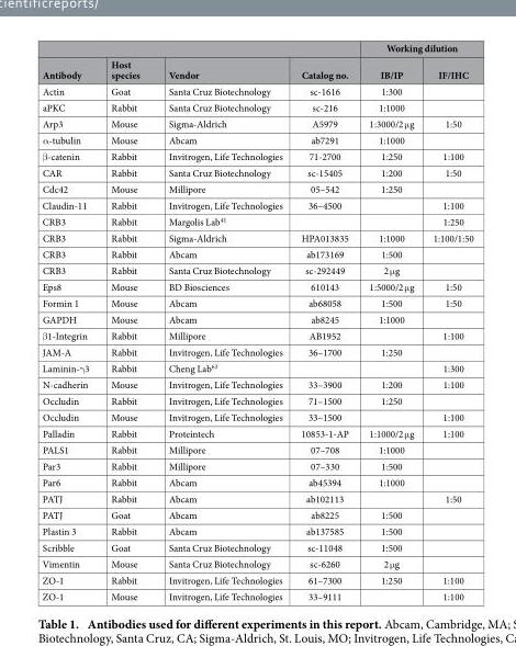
<table><thead><tr><td rowspan="2">Antibody</td><td rowspan="2">Host species</td><td rowspan="2">Vendor</td><td rowspan="2">Catalog no.</td><td colspan="2">Working dilution</td></tr><tr><td>IB/IP</td><td>IF/IHC</td></tr></thead><tbody><tr><td>Actin</td><td>Goat</td><td>Santa Cruz Biotechnology</td><td>sc-1616</td><td>1:300</td><td></td></tr><tr><td>aPKC</td><td>Rabbit</td><td>Santa Cruz Biotechnology</td><td>sc-216</td><td>1:1000</td><td></td></tr><tr><td>Arp3</td><td>Mouse</td><td>Sigma-Aldrich</td><td>A5979</td><td>1:3000/2 μ g</td><td>1:50</td></tr><tr><td>α -tubulin</td><td>Mouse</td><td>Abcam</td><td>ab7291</td><td>1:1000</td><td></td></tr><tr><td>β -catenin</td><td>Rabbit</td><td>Invitrogen, Life Technologies</td><td>71-2700</td><td>1:250</td><td>1:100</td></tr><tr><td>CAR</td><td>Rabbit</td><td>Santa Cruz Biotechnology</td><td>sc-15405</td><td>1:200</td><td>1:50</td></tr><tr><td>Cdc42</td><td>Mouse</td><td>Millipore</td><td>05–542</td><td>1:250</td><td></td></tr><tr><td>Claudin-11</td><td>Rabbit</td><td>Invitrogen, Life Technologies</td><td>36–4500</td><td></td><td>1:100</td></tr><tr><td>CRB3</td><td>Rabbit</td><td>Margolis Lab<sup>41</sup></td><td></td><td></td><td>1:250</td></tr><tr><td>CRB3</td><td>Rabbit</td><td>Sigma-Aldrich</td><td>HPA013835</td><td>1:1000</td><td>1:100/1:50</td></tr><tr><td>CRB3</td><td>Rabbit</td><td>Abcam</td><td>ab173169</td><td>1:500</td><td></td></tr><tr><td>CRB3</td><td>Rabbit</td><td>Santa Cruz Biotechnology</td><td>sc-292449</td><td>2 μ g</td><td></td></tr><tr><td>Eps8</td><td>Mouse</td><td>BD Biosciences</td><td>610143</td><td>1:5000/2 μ g</td><td>1:50</td></tr><tr><td>Formin 1</td><td>Mouse</td><td>Abcam</td><td>ab68058</td><td>1:500</td><td>1:50</td></tr><tr><td>GAPDH</td><td>Mouse</td><td>Abcam</td><td>ab8245</td><td>1:1000</td><td></td></tr><tr><td>β1-Integrin</td><td>Rabbit</td><td>Millipore</td><td>AB1952</td><td></td><td>1:100</td></tr><tr><td>JAM-A</td><td>Rabbit</td><td>Invitrogen, Life Technologies</td><td>36–1700</td><td>1:250</td><td></td></tr><tr><td>Laminin-γ 3</td><td>Rabbit</td><td>Cheng Lab<sup>63</sup></td><td></td><td></td><td>1:300</td></tr><tr><td>N-cadherin</td><td>Mouse</td><td>Invitrogen, Life Technologies</td><td>33–3900</td><td>1:200</td><td>1:100</td></tr><tr><td>Occludin</td><td>Rabbit</td><td>Invitrogen, Life Technologies</td><td>71–1500</td><td>1:250</td><td></td></tr><tr><td>Occludin</td><td>Mouse</td><td>Invitrogen, Life Technologies</td><td>33–1500</td><td></td><td>1:100</td></tr><tr><td>Palladin</td><td>Rabbit</td><td>Proteintech</td><td>10853-1-AP</td><td>1:1000/2 μ g</td><td>1:100</td></tr><tr><td>PALS1</td><td>Rabbit</td><td>Millipore</td><td>07–708</td><td>1:1000</td><td></td></tr><tr><td>Par3</td><td>Rabbit</td><td>Millipore</td><td>07–330</td><td>1:500</td><td></td></tr><tr><td>Par6</td><td>Rabbit</td><td>Abcam</td><td>ab45394</td><td>1:1000</td><td></td></tr><tr><td>PATJ</td><td>Rabbit</td><td>Abcam</td><td>ab102113</td><td></td><td>1:50</td></tr><tr><td>PATJ</td><td>Goat</td><td>Abcam</td><td>ab8225</td><td>1:500</td><td></td></tr><tr><td>Plastin 3</td><td>Rabbit</td><td>Abcam</td><td>ab137585</td><td>1:500</td><td></td></tr><tr><td>Scribble</td><td>Goat</td><td>Santa Cruz Biotechnology</td><td>sc-11048</td><td>1:500</td><td></td></tr><tr><td>Vimentin</td><td>Mouse</td><td>Santa Cruz Biotechnology</td><td>sc-6260</td><td>2 μ g</td><td></td></tr><tr><td>ZO-1</td><td>Rabbit</td><td>Invitrogen, Life Technologies</td><td>61–7300</td><td>1:250</td><td>1:100</td></tr><tr><td>ZO-1</td><td>Mouse</td><td>Invitrogen, Life Technologies</td><td>33–9111</td><td></td><td>1:100</td></tr></tbody></table>